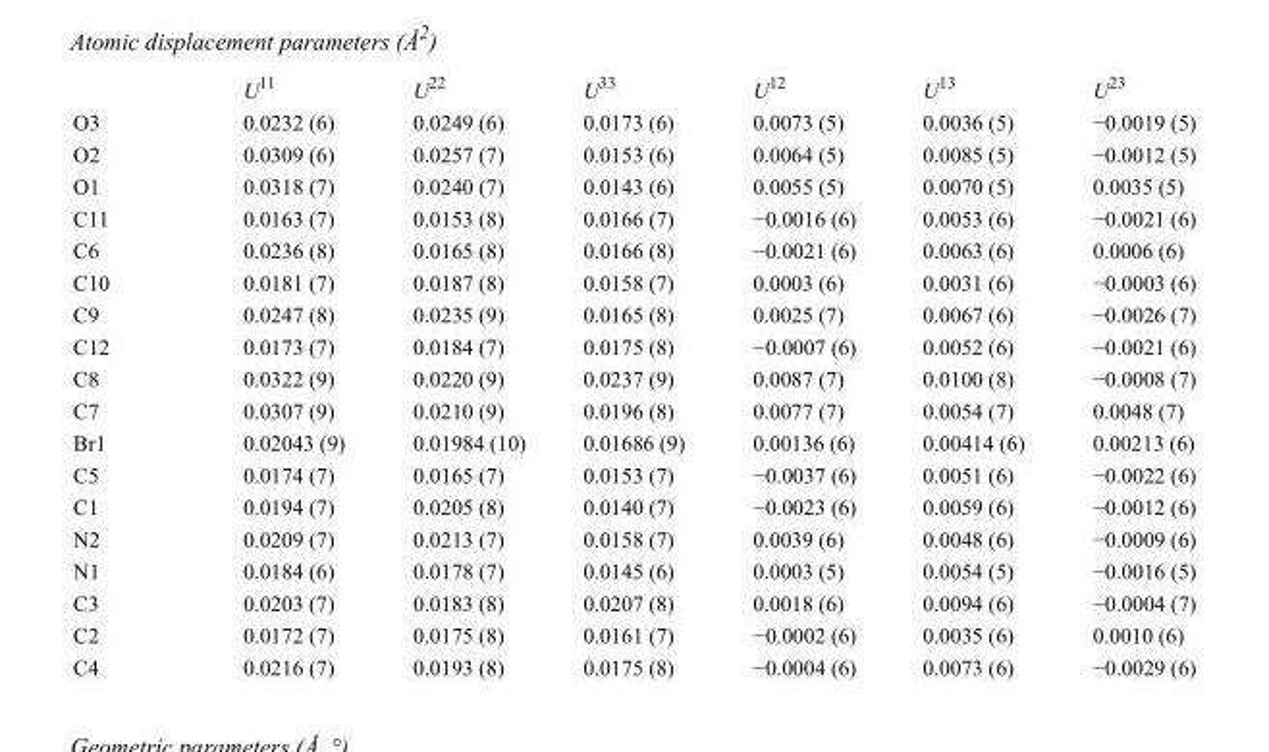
<table><thead><tr><td></td><td>U<sup>11</sup></td><td>U<sup>22</sup></td><td>U<sup>33</sup></td><td>U<sup>12</sup></td><td>U<sup>13</sup></td><td>U<sup>23</sup></td></tr></thead><tbody><tr><td>O3</td><td>0.0232 (6)</td><td>0.0249 (6)</td><td>0.0173 (6)</td><td>0.0073 (5)</td><td>0.0036 (5)</td><td>−0.0019 (5)</td></tr><tr><td>O2</td><td>0.0309 (6)</td><td>0.0257 (7)</td><td>0.0153 (6)</td><td>0.0064 (5)</td><td>0.0085 (5)</td><td>−0.0012 (5)</td></tr><tr><td>O1</td><td>0.0318 (7)</td><td>0.0240 (7)</td><td>0.0143 (6)</td><td>0.0055 (5)</td><td>0.0070 (5)</td><td>0.0035 (5)</td></tr><tr><td>C11</td><td>0.0163 (7)</td><td>0.0153 (8)</td><td>0.0166 (7)</td><td>−0.0016 (6)</td><td>0.0053 (6)</td><td>−0.0021 (6)</td></tr><tr><td>C6</td><td>0.0236 (8)</td><td>0.0165 (8)</td><td>0.0166 (8)</td><td>−0.0021 (6)</td><td>0.0063 (6)</td><td>0.0006 (6)</td></tr><tr><td>C10</td><td>0.0181 (7)</td><td>0.0187 (8)</td><td>0.0158 (7)</td><td>0.0003 (6)</td><td>0.0031 (6)</td><td>−0.0003 (6)</td></tr><tr><td>C9</td><td>0.0247 (8)</td><td>0.0235 (9)</td><td>0.0165 (8)</td><td>0.0025 (7)</td><td>0.0067 (6)</td><td>−0.0026 (7)</td></tr><tr><td>C12</td><td>0.0173 (7)</td><td>0.0184 (7)</td><td>0.0175 (8)</td><td>−0.0007 (6)</td><td>0.0052 (6)</td><td>−0.0021 (6)</td></tr><tr><td>C8</td><td>0.0322 (9)</td><td>0.0220 (9)</td><td>0.0237 (9)</td><td>0.0087 (7)</td><td>0.0100 (8)</td><td>−0.0008 (7)</td></tr><tr><td>C7</td><td>0.0307 (9)</td><td>0.0210 (9)</td><td>0.0196 (8)</td><td>0.0077 (7)</td><td>0.0054 (7)</td><td>0.0048 (7)</td></tr><tr><td>Br1</td><td>0.02043 (9)</td><td>0.01984 (10)</td><td>0.01686 (9)</td><td>0.00136 (6)</td><td>0.00414 (6)</td><td>0.00213 (6)</td></tr><tr><td>C5</td><td>0.0174 (7)</td><td>0.0165 (7)</td><td>0.0153 (7)</td><td>−0.0037 (6)</td><td>0.0051 (6)</td><td>−0.0022 (6)</td></tr><tr><td>C1</td><td>0.0194 (7)</td><td>0.0205 (8)</td><td>0.0140 (7)</td><td>−0.0023 (6)</td><td>0.0059 (6)</td><td>−0.0012 (6)</td></tr><tr><td>N2</td><td>0.0209 (7)</td><td>0.0213 (7)</td><td>0.0158 (7)</td><td>0.0039 (6)</td><td>0.0048 (6)</td><td>−0.0009 (6)</td></tr><tr><td>N1</td><td>0.0184 (6)</td><td>0.0178 (7)</td><td>0.0145 (6)</td><td>0.0003 (5)</td><td>0.0054 (5)</td><td>−0.0016 (5)</td></tr><tr><td>C3</td><td>0.0203 (7)</td><td>0.0183 (8)</td><td>0.0207 (8)</td><td>0.0018 (6)</td><td>0.0094 (6)</td><td>−0.0004 (7)</td></tr><tr><td>C2</td><td>0.0172 (7)</td><td>0.0175 (8)</td><td>0.0161 (7)</td><td>−0.0002 (6)</td><td>0.0035 (6)</td><td>0.0010 (6)</td></tr><tr><td>C4</td><td>0.0216 (7)</td><td>0.0193 (8)</td><td>0.0175 (8)</td><td>−0.0004 (6)</td><td>0.0073 (6)</td><td>−0.0029 (6)</td></tr></tbody></table>